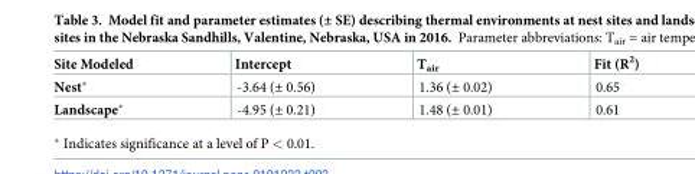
<table><thead><tr><td>Site Modeled</td><td>Intercept</td><td>T<sub>air</sub></td><td>Fit (R<sup>2</sup>)</td></tr></thead><tbody><tr><td>Nest*</td><td>-3.64 (± 0.56)</td><td>1.36 (± 0.02)</td><td>0.65</td></tr><tr><td>Landscape*</td><td>-4.95 (± 0.21)</td><td>1.48 (± 0.01)</td><td>0.61</td></tr></tbody></table>